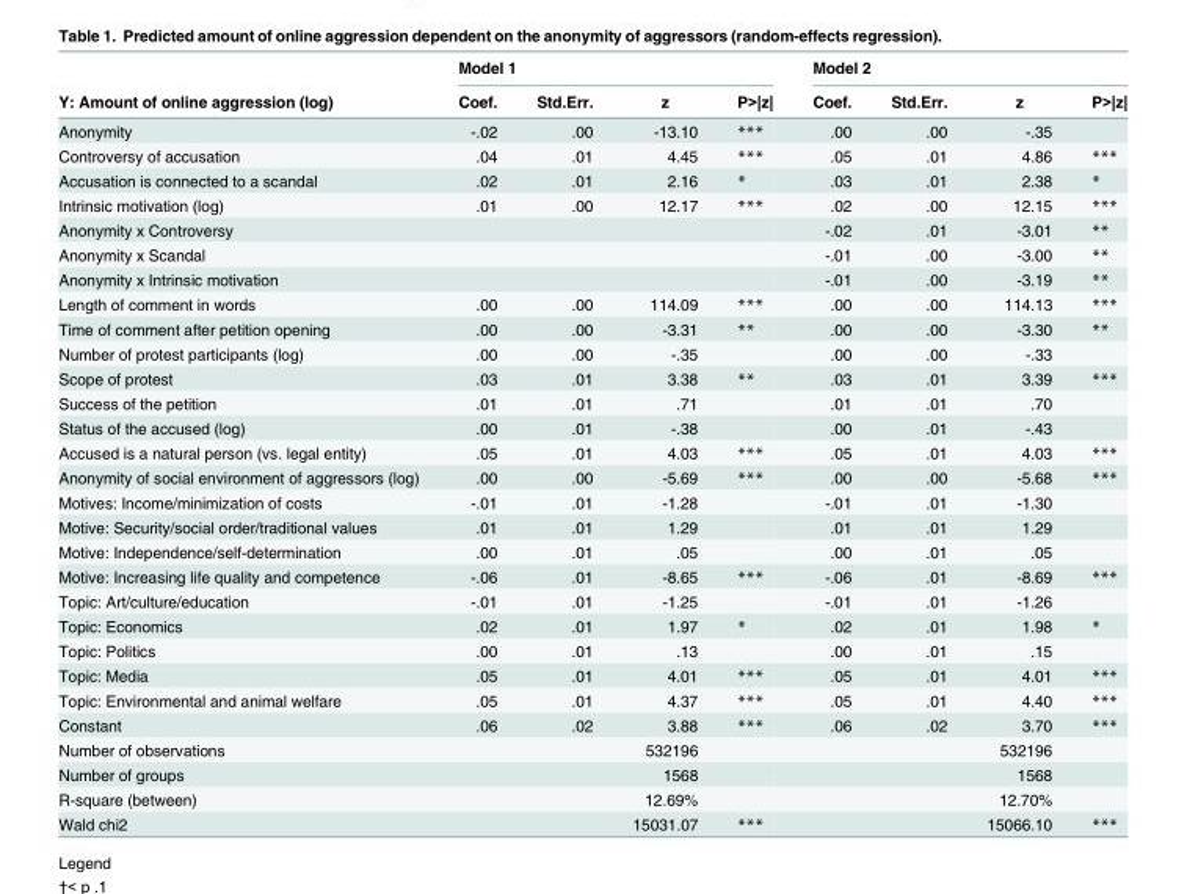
<table><thead><tr><td rowspan="2">Y: Amount of online aggression (log)</td><td colspan="4">Model 1</td><td colspan="4">Model 2</td></tr><tr><td>Coef.</td><td>Std.Err.</td><td>z</td><td>P&gt;|z|</td><td>Coef.</td><td>Std.Err.</td><td>z</td><td>P&gt;|z|</td></tr></thead><tbody><tr><td>Anonymity</td><td>-.02</td><td>.00</td><td>-13.10</td><td>***</td><td>.00</td><td>.00</td><td>-.35</td><td></td></tr><tr><td>Controversy of accusation</td><td>.04</td><td>.01</td><td>4.45</td><td>***</td><td>.05</td><td>.01</td><td>4.86</td><td>***</td></tr><tr><td>Accusation is connected to a scandal</td><td>.02</td><td>.01</td><td>2.16</td><td>*</td><td>.03</td><td>.01</td><td>2.38</td><td>*</td></tr><tr><td>Intrinsic motivation (log)</td><td>.01</td><td>.00</td><td>12.17</td><td>***</td><td>.02</td><td>.00</td><td>12.15</td><td>***</td></tr><tr><td>Anonymity x Controversy</td><td></td><td></td><td></td><td></td><td>-.02</td><td>.01</td><td>-3.01</td><td>**</td></tr><tr><td>Anonymity x Scandal</td><td></td><td></td><td></td><td></td><td>-.01</td><td>.00</td><td>-3.00</td><td>**</td></tr><tr><td>Anonymity x Intrinsic motivation</td><td></td><td></td><td></td><td></td><td>-.01</td><td>.00</td><td>-3.19</td><td>**</td></tr><tr><td>Length of comment in words</td><td>.00</td><td>.00</td><td>114.09</td><td>***</td><td>.00</td><td>.00</td><td>114.13</td><td>***</td></tr><tr><td>Time of comment after petition opening</td><td>.00</td><td>.00</td><td>-3.31</td><td>**</td><td>.00</td><td>.00</td><td>-3.30</td><td>**</td></tr><tr><td>Number of protest participants (log)</td><td>.00</td><td>.00</td><td>-.35</td><td></td><td>.00</td><td>.00</td><td>-.33</td><td></td></tr><tr><td>Scope of protest</td><td>.03</td><td>.01</td><td>3.38</td><td>**</td><td>.03</td><td>.01</td><td>3.39</td><td>***</td></tr><tr><td>Success of the petition</td><td>.01</td><td>.01</td><td>.71</td><td></td><td>.01</td><td>.01</td><td>.70</td><td></td></tr><tr><td>Status of the accused (log)</td><td>.00</td><td>.01</td><td>-.38</td><td></td><td>.00</td><td>.01</td><td>-.43</td><td></td></tr><tr><td>Accused is a natural person (vs. legal entity)</td><td>.05</td><td>.01</td><td>4.03</td><td>***</td><td>.05</td><td>.01</td><td>4.03</td><td>***</td></tr><tr><td>Anonymity of social environment of aggressors (log)</td><td>.00</td><td>.00</td><td>-5.69</td><td>***</td><td>.00</td><td>.00</td><td>-5.68</td><td>***</td></tr><tr><td>Motives: Income/minimization of costs</td><td>-.01</td><td>.01</td><td>-1.28</td><td></td><td>-.01</td><td>.01</td><td>-1.30</td><td></td></tr><tr><td>Motive: Security/social order/traditional values</td><td>.01</td><td>.01</td><td>1.29</td><td></td><td>.01</td><td>.01</td><td>1.29</td><td></td></tr><tr><td>Motive: Independence/self-determination</td><td>.00</td><td>.01</td><td>.05</td><td></td><td>.00</td><td>.01</td><td>.05</td><td></td></tr><tr><td>Motive: Increasing life quality and competence</td><td>-.06</td><td>.01</td><td>-8.65</td><td>***</td><td>-.06</td><td>.01</td><td>-8.69</td><td>***</td></tr><tr><td>Topic: Art/culture/education</td><td>-.01</td><td>.01</td><td>-1.25</td><td></td><td>-.01</td><td>.01</td><td>-1.26</td><td></td></tr><tr><td>Topic: Economics</td><td>.02</td><td>.01</td><td>1.97</td><td>*</td><td>.02</td><td>.01</td><td>1.98</td><td>*</td></tr><tr><td>Topic: Politics</td><td>.00</td><td>.01</td><td>.13</td><td></td><td>.00</td><td>.01</td><td>.15</td><td></td></tr><tr><td>Topic: Media</td><td>.05</td><td>.01</td><td>4.01</td><td>***</td><td>.05</td><td>.01</td><td>4.01</td><td>***</td></tr><tr><td>Topic: Environmental and animal welfare</td><td>.05</td><td>.01</td><td>4.37</td><td>***</td><td>.05</td><td>.01</td><td>4.40</td><td>***</td></tr><tr><td>Constant</td><td>.06</td><td>.02</td><td>3.88</td><td>***</td><td>.06</td><td>.02</td><td>3.70</td><td>***</td></tr><tr><td>Number of observations</td><td></td><td></td><td>532196</td><td></td><td></td><td></td><td>532196</td><td></td></tr><tr><td>Number of groups</td><td></td><td></td><td>1568</td><td></td><td></td><td></td><td>1568</td><td></td></tr><tr><td>R-square (between)</td><td></td><td></td><td>12.69%</td><td></td><td></td><td></td><td>12.70%</td><td></td></tr><tr><td>Wald chi2</td><td></td><td></td><td>15031.07</td><td>***</td><td></td><td></td><td>15066.10</td><td>***</td></tr></tbody></table>